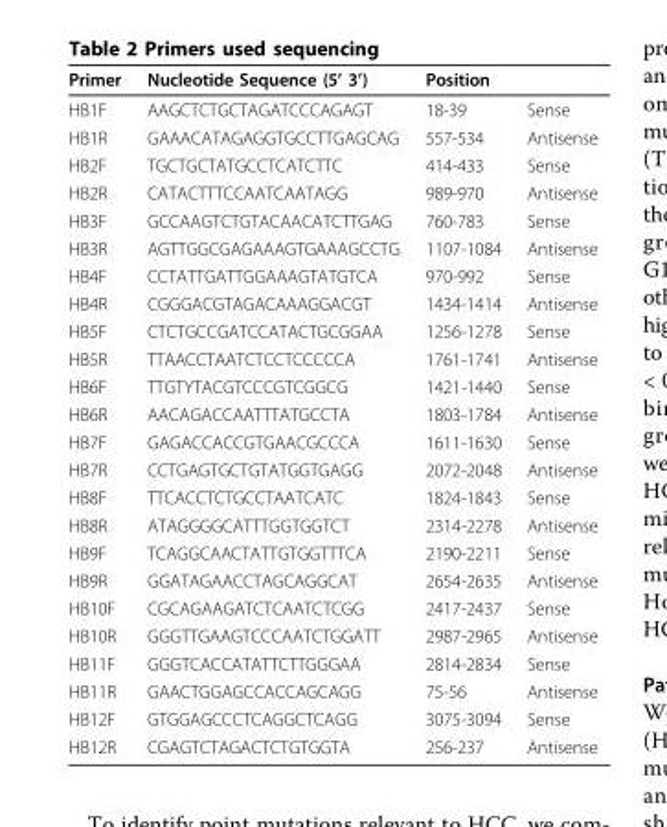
<table><thead><tr><td>Primer</td><td>Nucleotide Sequence (5’ 3’)</td><td>Position</td><td></td></tr></thead><tbody><tr><td>HB1F</td><td>AAGCTCTGCTAGATCCCAGAGT</td><td>18-39</td><td>Sense</td></tr><tr><td>HB1R</td><td>GAAACATAGAGGTGCCTTGAGCAG</td><td>557-534</td><td>Antisense</td></tr><tr><td>HB2F</td><td>TGCTGCTATGCCTCATCTTC</td><td>414-433</td><td>Sense</td></tr><tr><td>HB2R</td><td>CATACTTTCCAATCAATAGG</td><td>989-970</td><td>Antisense</td></tr><tr><td>HB3F</td><td>GCCAAGTCTGTACAACATCTTGAG</td><td>760-783</td><td>Sense</td></tr><tr><td>HB3R</td><td>AGTTGGCGAGAAAGTGAAAGCCTG</td><td>1107-1084</td><td>Antisense</td></tr><tr><td>HB4F</td><td>CCTATTGATTGGAAAGTATGTCA</td><td>970-992</td><td>Sense</td></tr><tr><td>HB4R</td><td>CGGGACGTAGACAAAGGACGT</td><td>1434-1414</td><td>Antisense</td></tr><tr><td>HB5F</td><td>CTCTGCCGATCCATACTGCGGAA</td><td>1256-1278</td><td>Sense</td></tr><tr><td>HB5R</td><td>TTAACCTAATCTCCTCCCCCA</td><td>1761-1741</td><td>Antisense</td></tr><tr><td>HB6F</td><td>TTGTYTACGTCCCGTCGGCG</td><td>1421-1440</td><td>Sense</td></tr><tr><td>HB6R</td><td>AACAGACCAATTTATGCCTA</td><td>1803-1784</td><td>Antisense</td></tr><tr><td>HB7F</td><td>GAGACCACCGTGAACGCCCA</td><td>1611-1630</td><td>Sense</td></tr><tr><td>HB7R</td><td>CCTGAGTGCTGTATGGTGAGG</td><td>2072-2048</td><td>Antisense</td></tr><tr><td>HB8F</td><td>TTCACCTCTGCCTAATCATC</td><td>1824-1843</td><td>Sense</td></tr><tr><td>HB8R</td><td>ATAGGGGCATTTGGTGGTCT</td><td>2314-2278</td><td>Antisense</td></tr><tr><td>HB9F</td><td>TCAGGCAACTATTGTGGTTTCA</td><td>2190-2211</td><td>Sense</td></tr><tr><td>HB9R</td><td>GGATAGAACCTAGCAGGCAT</td><td>2654-2635</td><td>Antisense</td></tr><tr><td>HB10F</td><td>CGCAGAAGATCTCAATCTCGG</td><td>2417-2437</td><td>Sense</td></tr><tr><td>HB10R</td><td>GGGTTGAAGTCCCAATCTGGATT</td><td>2987-2965</td><td>Antisense</td></tr><tr><td>HB11F</td><td>GGGTCACCATATTCTTGGGAA</td><td>2814-2834</td><td>Sense</td></tr><tr><td>HB11R</td><td>GAACTGGAGCCACCAGCAGG</td><td>75-56</td><td>Antisense</td></tr><tr><td>HB12F</td><td>GTGGAGCCCTCAGGCTCAGG</td><td>3075-3094</td><td>Sense</td></tr><tr><td>HB12R</td><td>CGAGTCTAGACTCTGTGGTA</td><td>256-237</td><td>Antisense</td></tr></tbody></table>